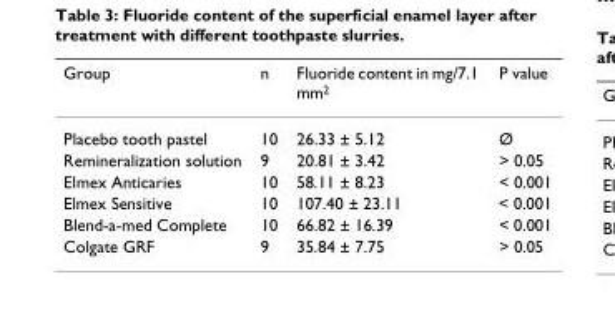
<table><thead><tr><td>Group</td><td>n</td><td>Fluoride content in mg/7.1 mm<sup>2</sup></td><td>P value</td></tr></thead><tbody><tr><td>Placebo tooth pastel</td><td>10</td><td>26.33 ± 5.12</td><td>Ø</td></tr><tr><td>Remineralization solution</td><td>9</td><td>20.81 ± 3.42</td><td>&gt; 0.05</td></tr><tr><td>Elmex Anticaries</td><td>10</td><td>58.11 ± 8.23</td><td>&lt; 0.001</td></tr><tr><td>Elmex Sensitive</td><td>10</td><td>107.40 ± 23.11</td><td>&lt; 0.001</td></tr><tr><td>Blend-a-med Complete</td><td>10</td><td>66.82 ± 16.39</td><td>&lt; 0.001</td></tr><tr><td>Colgate GRF</td><td>9</td><td>35.84 ± 7.75</td><td>&gt; 0.05</td></tr></tbody></table>